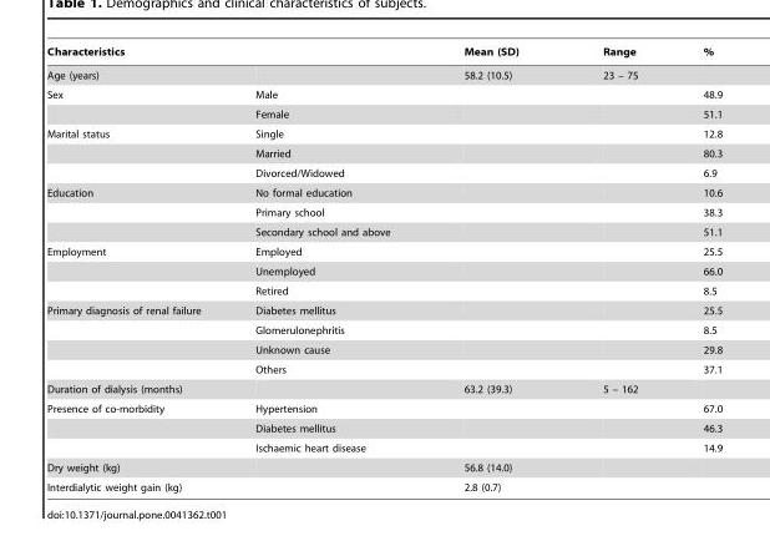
<table><thead><tr><td>Characteristics</td><td></td><td>Mean (SD)</td><td>Range</td><td>%</td></tr></thead><tbody><tr><td>Age (years)</td><td></td><td>58.2 (10.5)</td><td>23 – 75</td><td></td></tr><tr><td rowspan="2">Sex</td><td>Male</td><td></td><td></td><td>48.9</td></tr><tr><td>Female</td><td></td><td></td><td>51.1</td></tr><tr><td rowspan="3">Marital status</td><td>Single</td><td></td><td></td><td>12.8</td></tr><tr><td>Married</td><td></td><td></td><td>80.3</td></tr><tr><td>Divorced/Widowed</td><td></td><td></td><td>6.9</td></tr><tr><td rowspan="3">Education</td><td>No formal education</td><td></td><td></td><td>10.6</td></tr><tr><td>Primary school</td><td></td><td></td><td>38.3</td></tr><tr><td>Secondary school and above</td><td></td><td></td><td>51.1</td></tr><tr><td rowspan="3">Employment</td><td>Employed</td><td></td><td></td><td>25.5</td></tr><tr><td>Unemployed</td><td></td><td></td><td>66.0</td></tr><tr><td>Retired</td><td></td><td></td><td>8.5</td></tr><tr><td rowspan="4">Primary diagnosis of renal failure</td><td>Diabetes mellitus</td><td></td><td></td><td>25.5</td></tr><tr><td>Glomerulonephritis</td><td></td><td></td><td>8.5</td></tr><tr><td>Unknown cause</td><td></td><td></td><td>29.8</td></tr><tr><td>Others</td><td></td><td></td><td>37.1</td></tr><tr><td>Duration of dialysis (months)</td><td></td><td>63.2 (39.3)</td><td>5 – 162</td><td></td></tr><tr><td rowspan="3">Presence of co-morbidity</td><td>Hypertension</td><td></td><td></td><td>67.0</td></tr><tr><td>Diabetes mellitus</td><td></td><td></td><td>46.3</td></tr><tr><td>Ischaemic heart disease</td><td></td><td></td><td>14.9</td></tr><tr><td>Dry weight (kg)</td><td></td><td>56.8 (14.0)</td><td></td><td></td></tr><tr><td>Interdialytic weight gain (kg)</td><td></td><td>2.8 (0.7)</td><td></td><td></td></tr></tbody></table>